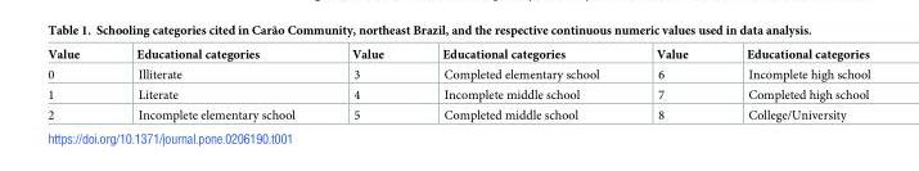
<table><thead><tr><td>Value</td><td>Educational categories</td><td>Value</td><td>Educational categories</td><td>Value</td><td>Educational categories</td></tr></thead><tbody><tr><td>0</td><td>Illiterate</td><td>3</td><td>Completed elementary school</td><td>6</td><td>Incomplete high school</td></tr><tr><td>1</td><td>Literate</td><td>4</td><td>Incomplete middle school</td><td>7</td><td>Completed high school</td></tr><tr><td>2</td><td>Incomplete elementary school</td><td>5</td><td>Completed middle school</td><td>8</td><td>College/University</td></tr></tbody></table>